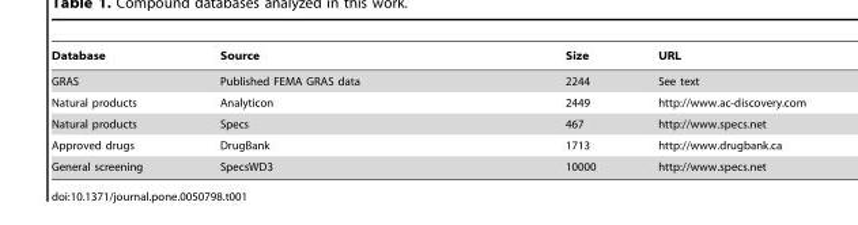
<table><thead><tr><td>Database</td><td>Source</td><td>Size</td><td>URL</td></tr></thead><tbody><tr><td>GRAS</td><td>Published FEMA GRAS data</td><td>2244</td><td>See text</td></tr><tr><td>Natural products</td><td>Analyticon</td><td>2449</td><td>http://www.ac-discovery.com</td></tr><tr><td>Natural products</td><td>Specs</td><td>467</td><td>http://www.specs.net</td></tr><tr><td>Approved drugs</td><td>DrugBank</td><td>1713</td><td>http://www.drugbank.ca</td></tr><tr><td>General screening</td><td>SpecsWD3</td><td>10000</td><td>http://www.specs.net</td></tr></tbody></table>